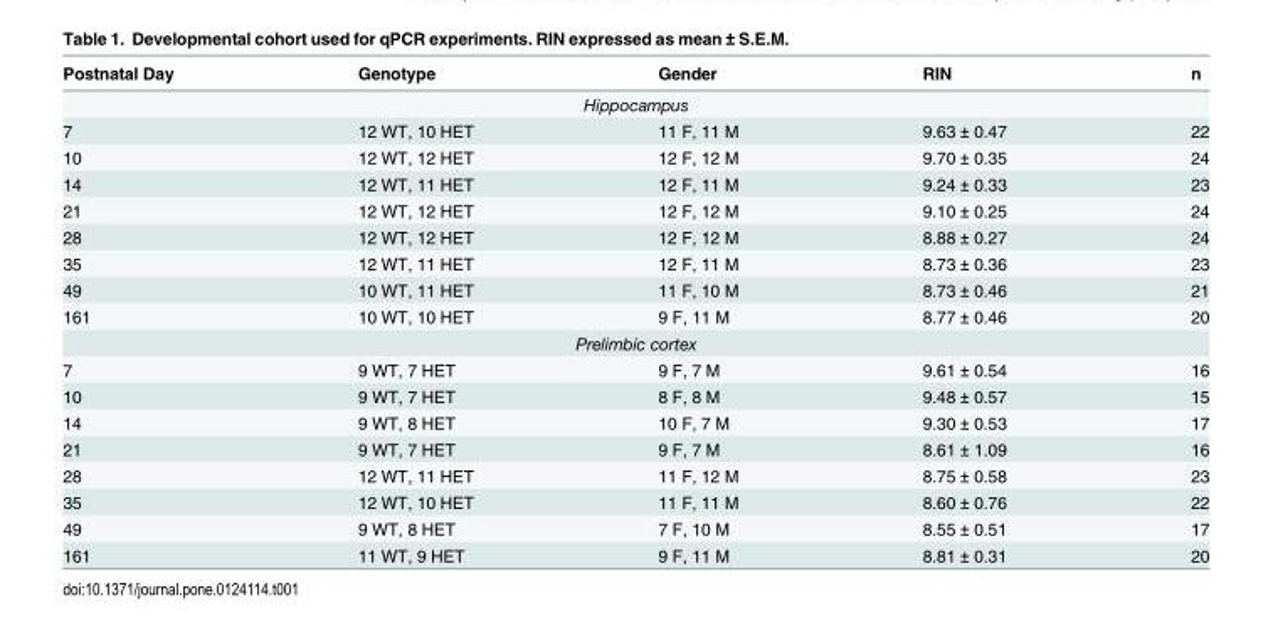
<table><thead><tr><td>Postnatal Day</td><td>Genotype</td><td>Gender</td><td>RIN</td><td>n</td></tr></thead><tbody><tr><td colspan="5">Hippocampus</td></tr><tr><td>7</td><td>12 WT, 10 HET</td><td>11 F, 11 M</td><td>9.63 ± 0.47</td><td>22</td></tr><tr><td>10</td><td>12 WT, 12 HET</td><td>12 F, 12 M</td><td>9.70 ± 0.35</td><td>24</td></tr><tr><td>14</td><td>12 WT, 11 HET</td><td>12 F, 11 M</td><td>9.24 ± 0.33</td><td>23</td></tr><tr><td>21</td><td>12 WT, 12 HET</td><td>12 F, 12 M</td><td>9.10 ± 0.25</td><td>24</td></tr><tr><td>28</td><td>12 WT, 12 HET</td><td>12 F, 12 M</td><td>8.88 ± 0.27</td><td>24</td></tr><tr><td>35</td><td>12 WT, 11 HET</td><td>12 F, 11 M</td><td>8.73 ± 0.36</td><td>23</td></tr><tr><td>49</td><td>10 WT, 11 HET</td><td>11 F, 10 M</td><td>8.73 ± 0.46</td><td>21</td></tr><tr><td>161</td><td>10 WT, 10 HET</td><td>9 F, 11 M</td><td>8.77 ± 0.46</td><td>20</td></tr><tr><td colspan="5">Prelimbic cortex</td></tr><tr><td>7</td><td>9 WT, 7 HET</td><td>9 F, 7 M</td><td>9.61 ± 0.54</td><td>16</td></tr><tr><td>10</td><td>9 WT, 7 HET</td><td>8 F, 8 M</td><td>9.48 ± 0.57</td><td>15</td></tr><tr><td>14</td><td>9 WT, 8 HET</td><td>10 F, 7 M</td><td>9.30 ± 0.53</td><td>17</td></tr><tr><td>21</td><td>9 WT, 7 HET</td><td>9 F, 7 M</td><td>8.61 ± 1.09</td><td>16</td></tr><tr><td>28</td><td>12 WT, 11 HET</td><td>11 F, 12 M</td><td>8.75 ± 0.58</td><td>23</td></tr><tr><td>35</td><td>12 WT, 10 HET</td><td>11 F, 11 M</td><td>8.60 ± 0.76</td><td>22</td></tr><tr><td>49</td><td>9 WT, 8 HET</td><td>7 F, 10 M</td><td>8.55 ± 0.51</td><td>17</td></tr><tr><td>161</td><td>11 WT, 9 HET</td><td>9 F, 11 M</td><td>8.81 ± 0.31</td><td>20</td></tr></tbody></table>